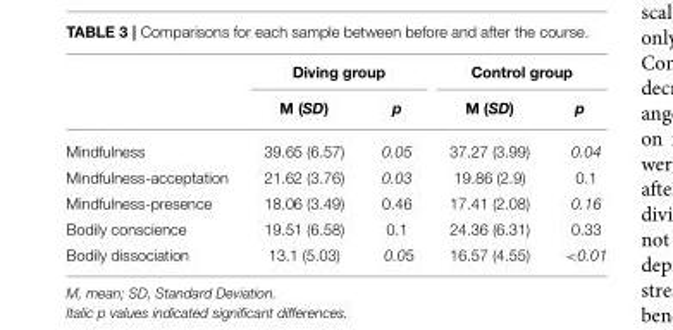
<table><thead><tr><td rowspan="2"></td><td colspan="2">Diving group</td><td colspan="2">Control group</td></tr><tr><td>M (SD)</td><td>p</td><td>M (SD)</td><td>p</td></tr></thead><tbody><tr><td>Mindfulness</td><td>39.65 (6.57)</td><td>0.05</td><td>37.27 (3.99)</td><td>0.04</td></tr><tr><td>Mindfulness-acceptation</td><td>21.62 (3.76)</td><td>0.03</td><td>19.86 (2.9)</td><td>0.1</td></tr><tr><td>Mindfulness-presence</td><td>18.06 (3.49)</td><td>0.46</td><td>17.41 (2.08)</td><td>0.16</td></tr><tr><td>Bodily conscience</td><td>19.51 (6.58)</td><td>0.1</td><td>24.36 (6.31)</td><td>0.33</td></tr><tr><td>Bodily dissociation</td><td>13.1 (5.03)</td><td>0.05</td><td>16.57 (4.55)</td><td>&lt;0.01</td></tr></tbody></table>